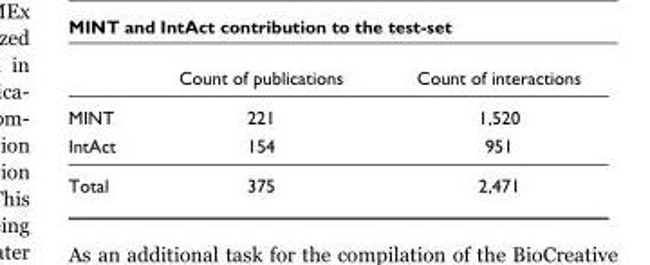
<table><thead><tr><td></td><td>Count of publications</td><td>Count of interactions</td></tr></thead><tbody><tr><td>MINT</td><td>221</td><td>1,520</td></tr><tr><td>IntAct</td><td>154</td><td>951</td></tr><tr><td>Total</td><td>375</td><td>2,471</td></tr></tbody></table>